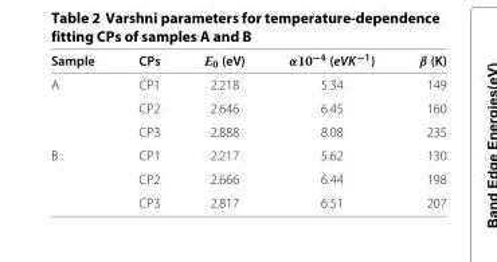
<table><thead><tr><td>Sample</td><td>CPs</td><td>E<sub>0</sub> (eV)</td><td>α10<sup>−4</sup> (eVK<sup>−1</sup>)</td><td>β (K)</td></tr></thead><tbody><tr><td rowspan="3">A</td><td>CP1</td><td>2.218</td><td>5.34</td><td>149</td></tr><tr><td>CP2</td><td>2.646</td><td>6.45</td><td>160</td></tr><tr><td>CP3</td><td>2.888</td><td>8.08</td><td>235</td></tr><tr><td rowspan="3">B</td><td>CP1</td><td>2.217</td><td>5.62</td><td>130</td></tr><tr><td>CP2</td><td>2.666</td><td>6.44</td><td>198</td></tr><tr><td>CP3</td><td>2.817</td><td>6.51</td><td>207</td></tr></tbody></table>